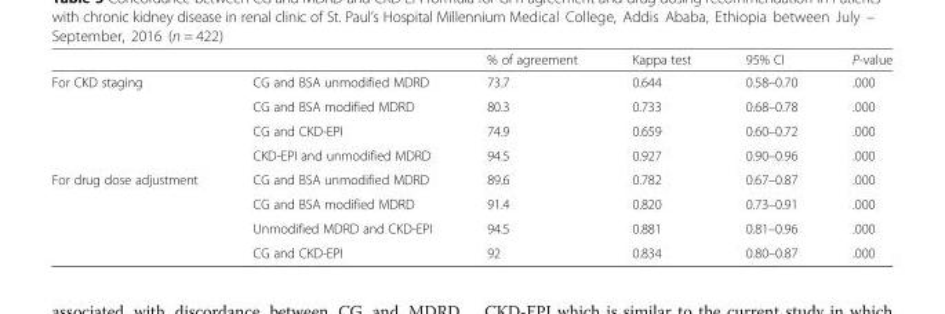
<table><thead><tr><td></td><td></td><td>% of agreement</td><td>Kappa test</td><td>95% CI</td><td>P-value</td></tr></thead><tbody><tr><td rowspan="4">For CKD staging</td><td>CG and BSA unmodified MDRD</td><td>73.7</td><td>0.644</td><td>0.58–0.70</td><td>.000</td></tr><tr><td>CG and BSA modified MDRD</td><td>80.3</td><td>0.733</td><td>0.68–0.78</td><td>.000</td></tr><tr><td>CG and CKD-EPI</td><td>74.9</td><td>0.659</td><td>0.60–0.72</td><td>.000</td></tr><tr><td>CKD-EPI and unmodified MDRD</td><td>94.5</td><td>0.927</td><td>0.90–0.96</td><td>.000</td></tr><tr><td rowspan="4">For drug dose adjustment</td><td>CG and BSA unmodified MDRD</td><td>89.6</td><td>0.782</td><td>0.67–0.87</td><td>.000</td></tr><tr><td>CG and BSA modified MDRD</td><td>91.4</td><td>0.820</td><td>0.73–0.91</td><td>.000</td></tr><tr><td>Unmodified MDRD and CKD-EPI</td><td>94.5</td><td>0.881</td><td>0.81–0.96</td><td>.000</td></tr><tr><td>CG and CKD-EPI</td><td>92</td><td>0.834</td><td>0.80–0.87</td><td>.000</td></tr></tbody></table>